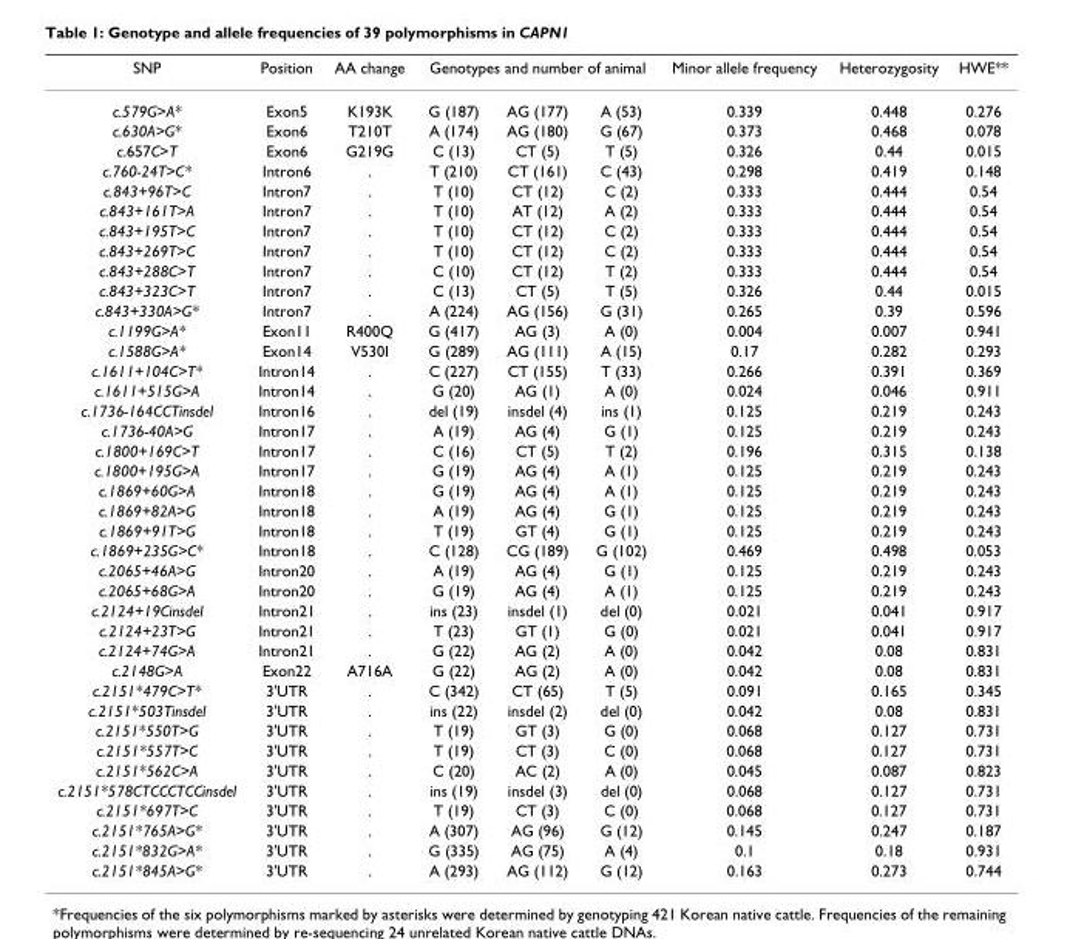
<table><thead><tr><td rowspan="2">SNP c.579G&gt;A*</td><td rowspan="2">Position Exon5</td><td rowspan="2">AA change K193K</td><td colspan="3">Genotypes and number of animal</td><td rowspan="2">Minor allele frequency 0.339</td><td rowspan="2">Heterozygosity 0.448</td><td rowspan="2">HWE** 0.276</td></tr><tr><td>G (187)</td><td>AG (177)</td><td>A (53)</td></tr></thead><tbody><tr><td>c.630A&gt;G*</td><td>Exon6</td><td>T210T</td><td>A (174)</td><td>AG (180)</td><td>G (67)</td><td>0.373</td><td>0.468</td><td>0.078</td></tr><tr><td>c.657C&gt;T</td><td>Exon6</td><td>G219G</td><td>C (13)</td><td>CT (5)</td><td>T (5)</td><td>0.326</td><td>0.44</td><td>0.015</td></tr><tr><td>c.760-24T&gt;C*</td><td>Intron6</td><td>.</td><td>T (210)</td><td>CT (161)</td><td>C (43)</td><td>0.298</td><td>0.419</td><td>0.148</td></tr><tr><td>c.843+96T&gt;C</td><td>Intron7</td><td>.</td><td>T (10)</td><td>CT (12)</td><td>C (2)</td><td>0.333</td><td>0.444</td><td>0.54</td></tr><tr><td>c.843+161T&gt;A</td><td>Intron7</td><td>.</td><td>T (10)</td><td>AT (12)</td><td>A (2)</td><td>0.333</td><td>0.444</td><td>0.54</td></tr><tr><td>c.843+195T&gt;C</td><td>Intron7</td><td>.</td><td>T (10)</td><td>CT (12)</td><td>C (2)</td><td>0.333</td><td>0.444</td><td>0.54</td></tr><tr><td>c.843+269T&gt;C</td><td>Intron7</td><td>.</td><td>T (10)</td><td>CT (12)</td><td>C (2)</td><td>0.333</td><td>0.444</td><td>0.54</td></tr><tr><td>c.843+288C&gt;T</td><td>Intron7</td><td>.</td><td>C (10)</td><td>CT (12)</td><td>T (2)</td><td>0.333</td><td>0.444</td><td>0.54</td></tr><tr><td>c.843+323C&gt;T</td><td>Intron7</td><td>.</td><td>C (13)</td><td>CT (5)</td><td>T (5)</td><td>0.326</td><td>0.44</td><td>0.015</td></tr><tr><td>c.843+330A&gt;G*</td><td>Intron7</td><td>.</td><td>A (224)</td><td>AG (156)</td><td>G (31)</td><td>0.265</td><td>0.39</td><td>0.596</td></tr><tr><td>c.1199G&gt;A*</td><td>Exon11</td><td>R400Q</td><td>G (417)</td><td>AG (3)</td><td>A (0)</td><td>0.004</td><td>0.007</td><td>0.941</td></tr><tr><td>c.1588G&gt;A*</td><td>Exon14</td><td>V530I</td><td>G (289)</td><td>AG (111)</td><td>A (15)</td><td>0.17</td><td>0.282</td><td>0.293</td></tr><tr><td>c.1611+104C&gt;T*</td><td>Intron14</td><td>.</td><td>C (227)</td><td>CT (155)</td><td>T (33)</td><td>0.266</td><td>0.391</td><td>0.369</td></tr><tr><td>c.1611+515G&gt;A</td><td>Intron14</td><td>.</td><td>G (20)</td><td>AG (1)</td><td>A (0)</td><td>0.024</td><td>0.046</td><td>0.911</td></tr><tr><td>c.1736-164CCTinsdel</td><td>Intron16</td><td>.</td><td>del (19)</td><td>insdel (4)</td><td>ins (1)</td><td>0.125</td><td>0.219</td><td>0.243</td></tr><tr><td>c.1736-40A&gt;G</td><td>Intron17</td><td>.</td><td>A (19)</td><td>AG (4)</td><td>G (1)</td><td>0.125</td><td>0.219</td><td>0.243</td></tr><tr><td>c.1800+169C&gt;T</td><td>Intron17</td><td>.</td><td>C (16)</td><td>CT (5)</td><td>T (2)</td><td>0.196</td><td>0.315</td><td>0.138</td></tr><tr><td>c.1800+195G&gt;A</td><td>Intron17</td><td>.</td><td>G (19)</td><td>AG (4)</td><td>A (1)</td><td>0.125</td><td>0.219</td><td>0.243</td></tr><tr><td>c.1869+60G&gt;A</td><td>Intron18</td><td>.</td><td>G (19)</td><td>AG (4)</td><td>A (1)</td><td>0.125</td><td>0.219</td><td>0.243</td></tr><tr><td>c.1869+82A&gt;G</td><td>Intron18</td><td>.</td><td>A (19)</td><td>AG (4)</td><td>G (1)</td><td>0.125</td><td>0.219</td><td>0.243</td></tr><tr><td>c.1869+91T&gt;G</td><td>Intron18</td><td>.</td><td>T (19)</td><td>GT (4)</td><td>G (1)</td><td>0.125</td><td>0.219</td><td>0.243</td></tr><tr><td>c.1869+235G&gt;C*</td><td>Intron18</td><td>.</td><td>C (128)</td><td>CG (189)</td><td>G (102)</td><td>0.469</td><td>0.498</td><td>0.053</td></tr><tr><td>c.2065+46A&gt;G</td><td>Intron20</td><td>.</td><td>A (19)</td><td>AG (4)</td><td>G (1)</td><td>0.125</td><td>0.219</td><td>0.243</td></tr><tr><td>c.2065+68G&gt;A</td><td>Intron20</td><td>.</td><td>G (19)</td><td>AG (4)</td><td>A (1)</td><td>0.125</td><td>0.219</td><td>0.243</td></tr><tr><td>c.2124+19Cinsdel</td><td>Intron21</td><td>.</td><td>ins (23)</td><td>insdel (1)</td><td>del (0)</td><td>0.021</td><td>0.041</td><td>0.917</td></tr><tr><td>c.2124+23T&gt;G</td><td>Intron21</td><td>.</td><td>T (23)</td><td>GT (1)</td><td>G (0)</td><td>0.021</td><td>0.041</td><td>0.917</td></tr><tr><td>c.2124+74G&gt;A</td><td>Intron21</td><td>.</td><td>G (22)</td><td>AG (2)</td><td>A (0)</td><td>0.042</td><td>0.08</td><td>0.831</td></tr><tr><td>c.2148G&gt;A</td><td>Exon22</td><td>A716A</td><td>G (22)</td><td>AG (2)</td><td>A (0)</td><td>0.042</td><td>0.08</td><td>0.831</td></tr><tr><td>c.2151*479C&gt;T*</td><td>3&#x27;UTR</td><td>.</td><td>C (342)</td><td>CT (65)</td><td>T (5)</td><td>0.091</td><td>0.165</td><td>0.345</td></tr><tr><td>c.2151*503Tinsdel</td><td>3&#x27;UTR</td><td>.</td><td>ins (22)</td><td>insdel (2)</td><td>del (0)</td><td>0.042</td><td>0.08</td><td>0.831</td></tr><tr><td>c.2151*550T&gt;G</td><td>3&#x27;UTR</td><td>.</td><td>T (19)</td><td>GT (3)</td><td>G (0)</td><td>0.068</td><td>0.127</td><td>0.731</td></tr><tr><td>c.2151*557T&gt;C</td><td>3&#x27;UTR</td><td>.</td><td>T (19)</td><td>CT (3)</td><td>C (0)</td><td>0.068</td><td>0.127</td><td>0.731</td></tr><tr><td>c.2151*562C&gt;A</td><td>3&#x27;UTR</td><td>.</td><td>C (20)</td><td>AC (2)</td><td>A (0)</td><td>0.045</td><td>0.087</td><td>0.823</td></tr><tr><td>c.2151*578CTCCCTCCinsdel</td><td>3&#x27;UTR</td><td>.</td><td>ins (19)</td><td>insdel (3)</td><td>del (0)</td><td>0.068</td><td>0.127</td><td>0.731</td></tr><tr><td>c.2151*697T&gt;C</td><td>3&#x27;UTR</td><td>.</td><td>T (19)</td><td>CT (3)</td><td>C (0)</td><td>0.068</td><td>0.127</td><td>0.731</td></tr><tr><td>c.2151*765A&gt;G*</td><td>3&#x27;UTR</td><td>.</td><td>A (307)</td><td>AG (96)</td><td>G (12)</td><td>0.145</td><td>0.247</td><td>0.187</td></tr><tr><td>c.2151*832G&gt;A*</td><td>3&#x27;UTR</td><td>.</td><td>G (335)</td><td>AG (75)</td><td>A (4)</td><td>0.1</td><td>0.18</td><td>0.931</td></tr><tr><td>c.2151*845A&gt;G*</td><td>3&#x27;UTR</td><td>.</td><td>A (293)</td><td>AG (112)</td><td>G (12)</td><td>0.163</td><td>0.273</td><td>0.744</td></tr></tbody></table>